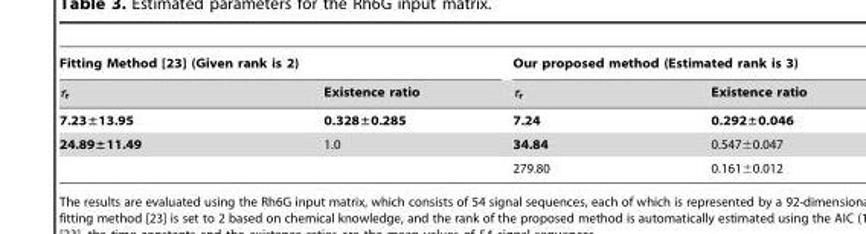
<table><thead><tr><td colspan="2">Fitting Method [23] (Given rank is 2)</td><td colspan="2">Our proposed method (Estimated rank is 3)</td></tr><tr><td>τ<sub>r</sub></td><td>Existence ratio</td><td>τ<sub>r</sub></td><td>Existence ratio</td></tr></thead><tbody><tr><td>7.23±13.95</td><td>0.328±0.285</td><td>7.24</td><td>0.292±0.046</td></tr><tr><td rowspan="2">24.89±11.49</td><td>1.0</td><td>34.84</td><td>0.547±0.047</td></tr><tr><td></td><td>279.80</td><td>0.161±0.012</td></tr></tbody></table>